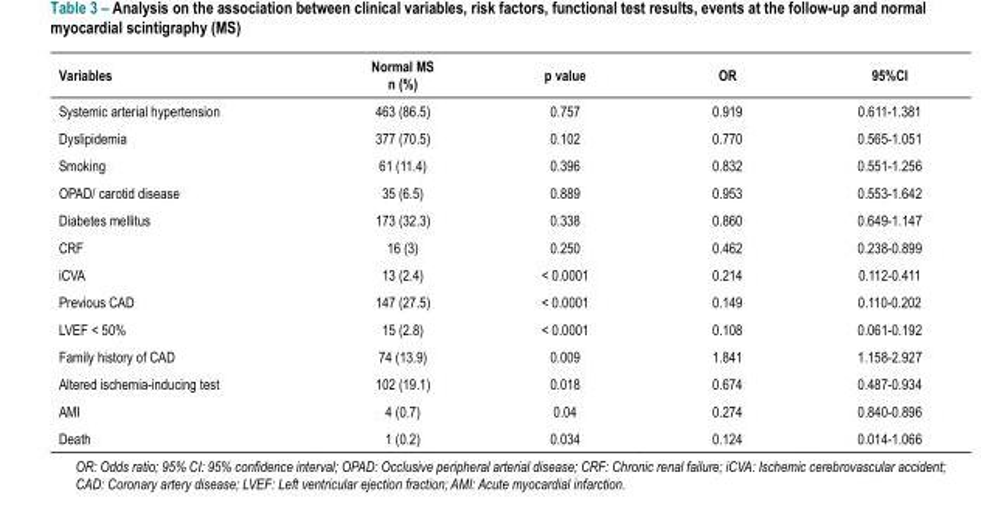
<table><thead><tr><td>Variables</td><td>Normal MS n (%)</td><td>p value</td><td>OR</td><td>95%CI</td></tr></thead><tbody><tr><td>Systemic arterial hypertension</td><td>463 (86.5)</td><td>0.757</td><td>0.919</td><td>0.611-1.381</td></tr><tr><td>Dyslipidemia</td><td>377 (70.5)</td><td>0.102</td><td>0.770</td><td>0.565-1.051</td></tr><tr><td>Smoking</td><td>61 (11.4)</td><td>0.396</td><td>0.832</td><td>0.551-1.256</td></tr><tr><td>OPAD/ carotid disease</td><td>35 (6.5)</td><td>0.889</td><td>0.953</td><td>0.553-1.642</td></tr><tr><td>Diabetes mellitus</td><td>173 (32.3)</td><td>0.338</td><td>0.860</td><td>0.649-1.147</td></tr><tr><td>CRF</td><td>16 (3)</td><td>0.250</td><td>0.462</td><td>0.238-0.899</td></tr><tr><td>iCVA</td><td>13 (2.4)</td><td>&lt; 0.0001</td><td>0.214</td><td>0.112-0.411</td></tr><tr><td>Previous CAD</td><td>147 (27.5)</td><td>&lt; 0.0001</td><td>0.149</td><td>0.110-0.202</td></tr><tr><td>LVEF &lt; 50%</td><td>15 (2.8)</td><td>&lt; 0.0001</td><td>0.108</td><td>0.061-0.192</td></tr><tr><td>Family history of CAD</td><td>74 (13.9)</td><td>0.009</td><td>1.841</td><td>1.158-2.927</td></tr><tr><td>Altered ischemia-inducing test</td><td>102 (19.1)</td><td>0.018</td><td>0.674</td><td>0.487-0.934</td></tr><tr><td>AMI</td><td>4 (0.7)</td><td>0.04</td><td>0.274</td><td>0.840-0.896</td></tr><tr><td>Death</td><td>1 (0.2)</td><td>0.034</td><td>0.124</td><td>0.014-1.066</td></tr></tbody></table>